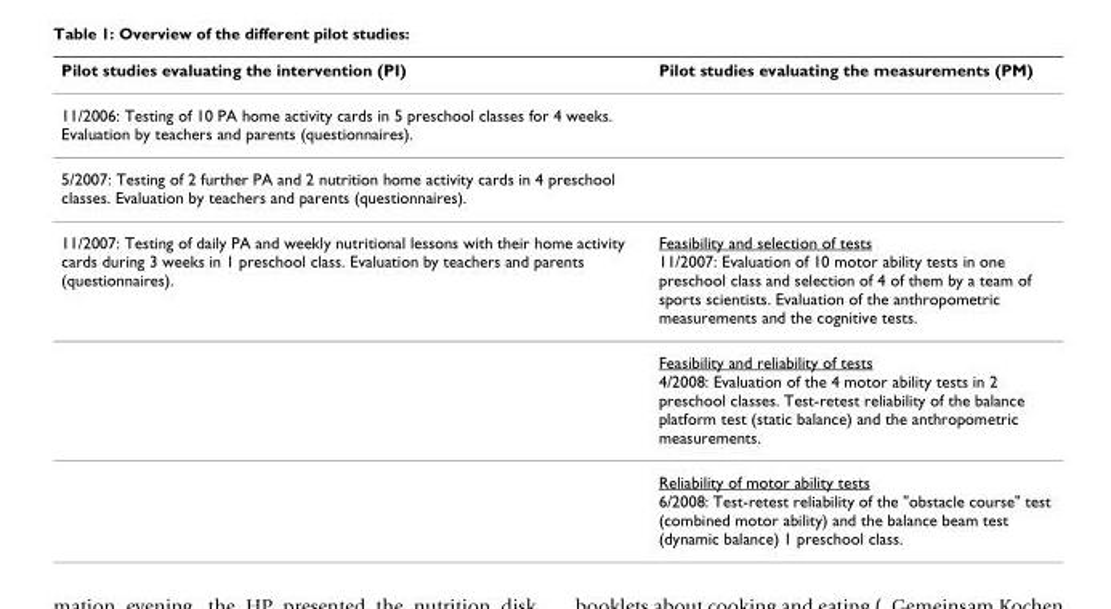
<table><thead><tr><td>Pilot studies evaluating the intervention (PI)</td><td>Pilot studies evaluating the measurements (PM)</td></tr></thead><tbody><tr><td colspan="2">11/2006: Testing of 10 PA home activity cards in 5 preschool classes for 4 weeks. Evaluation by teachers and parents (questionnaires).</td></tr><tr><td colspan="2">5/2007: Testing of 2 further PA and 2 nutrition home activity cards in 4 preschool classes. Evaluation by teachers and parents (questionnaires).</td></tr><tr><td rowspan="3">11/2007: Testing of daily PA and weekly nutritional lessons with their home activity cards during 3 weeks in 1 preschool class. Evaluation by teachers and parents (questionnaires).</td><td>Feasibility and selection of tests 11/2007: Evaluation of 10 motor ability tests in one preschool class and selection of 4 of them by a team of sports scientists. Evaluation of the anthropometric measurements and the cognitive tests.</td></tr><tr><td>Feasibility and reliability of tests 4/2008: Evaluation of the 4 motor ability tests in 2 preschool classes. Test-retest reliability of the balance platform test (static balance) and the anthropometric measurements.</td></tr><tr><td>Reliability of motor ability tests 6/2008: Test-retest reliability of the &quot;obstacle course&quot; test (combined motor ability) and the balance beam test (dynamic balance) 1 preschool class.</td></tr></tbody></table>